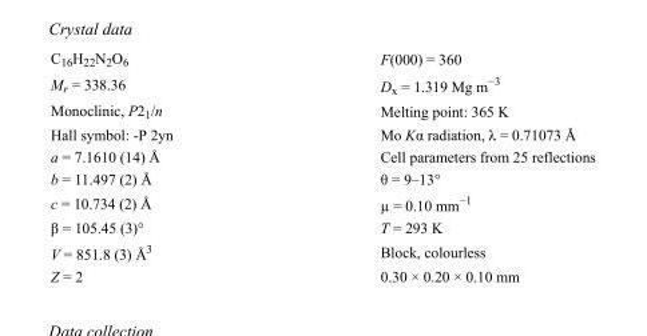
<table><tbody><tr><td>C<sub>16</sub>H<sub>22</sub>N<sub>2</sub>O<sub>6</sub></td><td>F(000) = 360</td></tr><tr><td>M<sub>r</sub> = 338.36</td><td>D<sub>x</sub> = 1.319 Mg m<sup>−3</sup></td></tr><tr><td>Monoclinic, P2<sub>1</sub>/n</td><td>Melting point: 365 K</td></tr><tr><td>Hall symbol: -P 2yn</td><td>Mo Kα radiation, λ = 0.71073 Å</td></tr><tr><td>a = 7.1610 (14) Å</td><td>Cell parameters from 25 reflections</td></tr><tr><td>b = 11.497 (2) Å</td><td>θ = 9–13°</td></tr><tr><td>c = 10.734 (2) Å</td><td>µ = 0.10 mm<sup>−1</sup></td></tr><tr><td>β = 105.45 (3)°</td><td>T = 293 K</td></tr><tr><td>V = 851.8 (3) Å<sup>3</sup></td><td>Block, colourless</td></tr><tr><td>Z = 2</td><td>0.30 × 0.20 × 0.10 mm</td></tr></tbody></table>